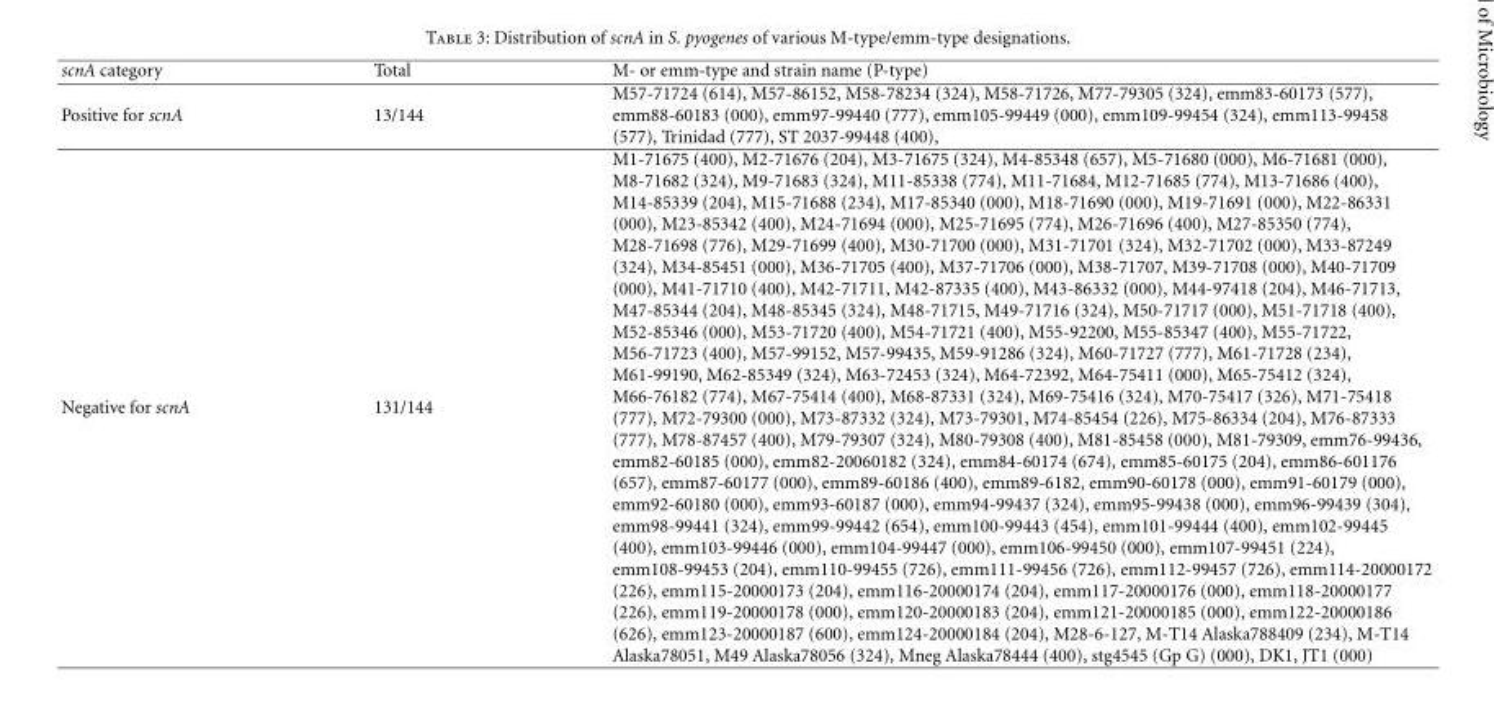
<table><thead><tr><td>scnA category</td><td>Total</td><td>M- or emm-type and strain name (P-type)</td></tr></thead><tbody><tr><td>Positive for scnA</td><td>13/144</td><td>M57-71724 (614), M57-86152, M58-78234 (324), M58-71726, M77-79305 (324), emm83-60173 (577), emm88-60183 (000), emm97-99440 (777), emm105-99449 (000), emm109-99454 (324), emm113-99458 (577), Trinidad (777), ST 2037-99448 (400),</td></tr><tr><td>Negative for scnA</td><td>131/144</td><td>M1-71675 (400), M2-71676 (204), M3-71675 (324), M4-85348 (657), M5-71680 (000), M6-71681 (000), M8-71682 (324), M9-71683 (324), M11-85338 (774), M11-71684, M12-71685 (774), M13-71686 (400), M14-85339 (204), M15-71688 (234), M17-85340 (000), M18-71690 (000), M19-71691 (000), M22-86331 (000), M23-85342 (400), M24-71694 (000), M25-71695 (774), M26-71696 (400), M27-85350 (774), M28-71698 (776), M29-71699 (400), M30-71700 (000), M31-71701 (324), M32-71702 (000), M33-87249 (324), M34-85451 (000), M36-71705 (400), M37-71706 (000), M38-71707, M39-71708 (000), M40-71709 (000), M41-71710 (400), M42-71711, M42-87335 (400), M43-86332 (000), M44-97418 (204), M46-71713, M47-85344 (204), M48-85345 (324), M48-71715, M49-71716 (324), M50-71717 (000), M51-71718 (400), M52-85346 (000), M53-71720 (400), M54-71721 (400), M55-92200, M55-85347 (400), M55-71722, M56-71723 (400), M57-99152, M57-99435, M59-91286 (324), M60-71727 (777), M61-71728 (234), M61-99190, M62-85349 (324), M63-72453 (324), M64-72392, M64-75411 (000), M65-75412 (324), M66-76182 (774), M67-75414 (400), M68-87331 (324), M69-75416 (324), M70-75417 (326), M71-75418 (777), M72-79300 (000), M73-87332 (324), M73-79301, M74-85454 (226), M75-86334 (204), M76-87333 (777), M78-87457 (400), M79-79307 (324), M80-79308 (400), M81-85458 (000), M81-79309, emm76-99436, emm82-60185 (000), emm82-20060182 (324), emm84-60174 (674), emm85-60175 (204), emm86-601176 (657), emm87-60177 (000), emm89-60186 (400), emm89-6182, emm90-60178 (000), emm91-60179 (000), emm92-60180 (000), emm93-60187 (000), emm94-99437 (324), emm95-99438 (000), emm96-99439 (304), emm98-99441 (324), emm99-99442 (654), emm100-99443 (454), emm101-99444 (400), emm102-99445 (400), emm103-99446 (000), emm104-99447 (000), emm106-99450 (000), emm107-99451 (224), emm108-99453 (204), emm110-99455 (726), emm111-99456 (726), emm112-99457 (726), emm114-20000172 (226), emm115-20000173 (204), emm116-20000174 (204), emm117-20000176 (000), emm118-20000177 (226), emm119-20000178 (000), emm120-20000183 (204), emm121-20000185 (000), emm122-20000186 (626), emm123-20000187 (600), emm124-20000184 (204), M28-6-127, M-T14 Alaska788409 (234), M-T14 Alaska78051, M49 Alaska78056 (324), Mneg Alaska78444 (400), stg4545 (Gp G) (000), DK1, JT1 (000)</td></tr></tbody></table>